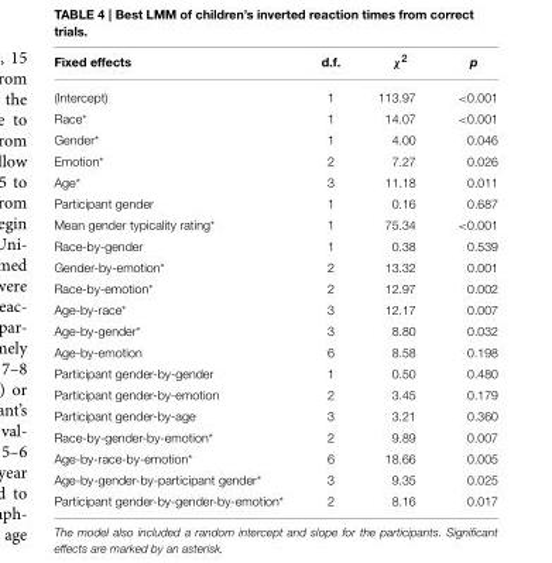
<table><thead><tr><td>Fixed effects</td><td>d.f.</td><td>χ<sup>2</sup></td><td>p</td></tr></thead><tbody><tr><td>(Intercept)</td><td>1</td><td>113.97</td><td>&lt;0.001</td></tr><tr><td>Race*</td><td>1</td><td>14.07</td><td>&lt;0.001</td></tr><tr><td>Gender*</td><td>1</td><td>4.00</td><td>0.046</td></tr><tr><td>Emotion*</td><td>2</td><td>7.27</td><td>0.026</td></tr><tr><td>Age*</td><td>3</td><td>11.18</td><td>0.011</td></tr><tr><td>Participant gender</td><td>1</td><td>0.16</td><td>0.687</td></tr><tr><td>Mean gender typicality rating*</td><td>1</td><td>75.34</td><td>&lt;0.001</td></tr><tr><td>Race-by-gender</td><td>1</td><td>0.38</td><td>0.539</td></tr><tr><td>Gender-by-emotion*</td><td>2</td><td>13.32</td><td>0.001</td></tr><tr><td>Race-by-emotion*</td><td>2</td><td>12.97</td><td>0.002</td></tr><tr><td>Age-by-race*</td><td>3</td><td>12.17</td><td>0.007</td></tr><tr><td>Age-by-gender*</td><td>3</td><td>8.80</td><td>0.032</td></tr><tr><td>Age-by-emotion</td><td>6</td><td>8.58</td><td>0.198</td></tr><tr><td>Participant gender-by-gender</td><td>1</td><td>0.50</td><td>0.480</td></tr><tr><td>Participant gender-by-emotion</td><td>2</td><td>3.45</td><td>0.179</td></tr><tr><td>Participant gender-by-age</td><td>3</td><td>3.21</td><td>0.360</td></tr><tr><td>Race-by-gender-by-emotion*</td><td>2</td><td>9.89</td><td>0.007</td></tr><tr><td>Age-by-race-by-emotion*</td><td>6</td><td>18.66</td><td>0.005</td></tr><tr><td>Age-by-gender-by-participant gender*</td><td>3</td><td>9.35</td><td>0.025</td></tr><tr><td>Participant gender-by-gender-by-emotion*</td><td>2</td><td>8.16</td><td>0.017</td></tr></tbody></table>